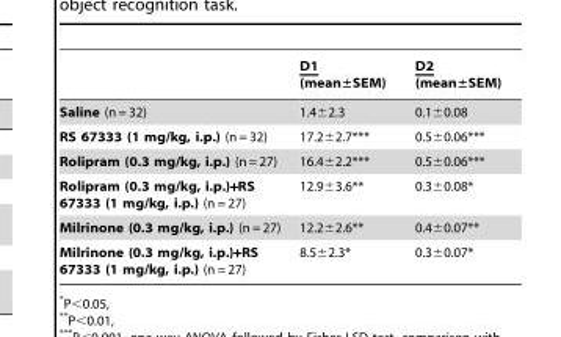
<table><thead><tr><td></td><td>D1 (mean±SEM)</td><td>D2 (mean±SEM)</td></tr></thead><tbody><tr><td>Saline (n = 32)</td><td>1.4±2.3</td><td>0.1±0.08</td></tr><tr><td>RS 67333 (1 mg/kg, i.p.) (n = 32)</td><td>17.2±2.7***</td><td>0.5±0.06***</td></tr><tr><td>Rolipram (0.3 mg/kg, i.p.) (n = 27)</td><td>16.4±2.2***</td><td>0.5±0.06***</td></tr><tr><td>Rolipram (0.3 mg/kg, i.p.)+RS 67333 (1 mg/kg, i.p.) (n = 27)</td><td>12.9±3.6**</td><td>0.3±0.08*</td></tr><tr><td>Milrinone (0.3 mg/kg, i.p.) (n = 27)</td><td>12.2±2.6**</td><td>0.4±0.07**</td></tr><tr><td>Milrinone (0.3 mg/kg, i.p.)+RS 67333 (1 mg/kg, i.p.) (n = 27)</td><td>8.5±2.3*</td><td>0.3±0.07*</td></tr></tbody></table>